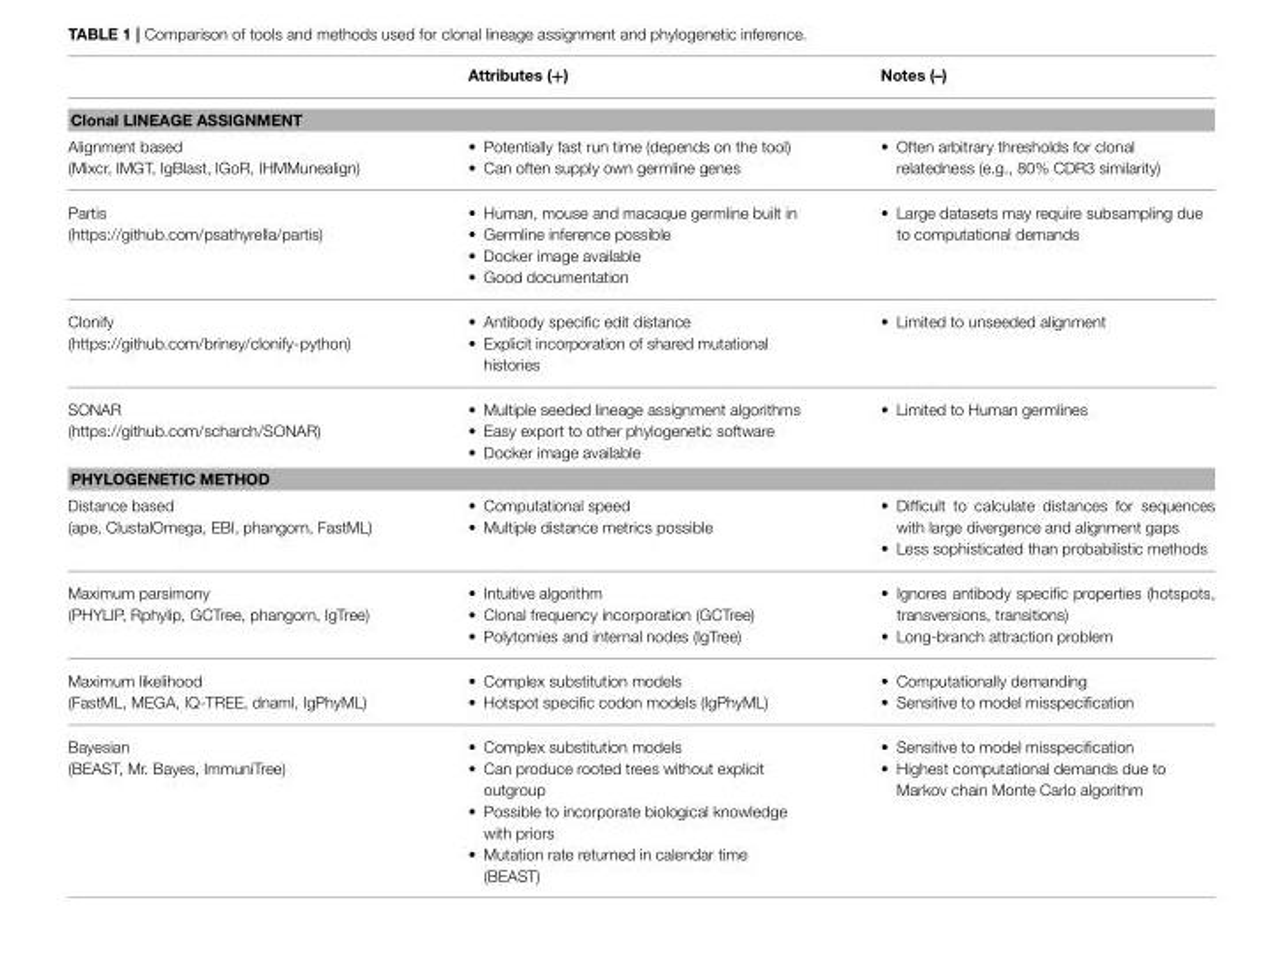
<table><thead><tr><td></td><td>Attributes (+)</td><td>Notes (–)</td></tr></thead><tbody><tr><td colspan="3">Clonal LINEAGE ASSIGNMENT</td></tr><tr><td>Alignment based (Mixcr, IMGT, IgBlast, IGoR, IHMMunealign)</td><td>• Potentially fast run time (depends on the tool) • Can often supply own germline genes</td><td>• Often arbitrary thresholds for clonal relatedness (e.g., 80% CDR3 similarity)</td></tr><tr><td>Partis (https://github.com/psathyrella/partis)</td><td>• Human, mouse and macaque germline built in • Germline inference possible • Docker image available • Good documentation</td><td>• Large datasets may require subsampling due to computational demands</td></tr><tr><td>Clonify (https://github.com/briney/clonify-python)</td><td>• Antibody specific edit distance • Explicit incorporation of shared mutational histories</td><td>• Limited to unseeded alignment</td></tr><tr><td>SONAR (https://github.com/scharch/SONAR)</td><td>• Multiple seeded lineage assignment algorithms • Easy export to other phylogenetic software • Docker image available</td><td>• Limited to Human germlines</td></tr><tr><td colspan="3">PHYLOGENETIC METHOD</td></tr><tr><td>Distance based (ape, ClustalOmega, EBI, phangorn, FastML)</td><td>• Computational speed • Multiple distance metrics possible</td><td>• Difficult to calculate distances for sequences with large divergence and alignment gaps • Less sophisticated than probabilistic methods</td></tr><tr><td>Maximum parsimony (PHYLIP, Rphylip, GCTree, phangorn, IgTree)</td><td>• Intuitive algorithm • Clonal frequency incorporation (GCTree) • Polytomies and internal nodes (IgTree)</td><td>• Ignores antibody specific properties (hotspots, transversions, transitions) • Long-branch attraction problem</td></tr><tr><td>Maximum likelihood (FastML, MEGA, IQ-TREE, dnaml, IgPhyML)</td><td>• Complex substitution models • Hotspot specific codon models (IgPhyML)</td><td>• Computationally demanding • Sensitive to model misspecification</td></tr><tr><td>Bayesian (BEAST, Mr. Bayes, ImmuniTree)</td><td>• Complex substitution models • Can produce rooted trees without explicit outgroup • Possible to incorporate biological knowledge with priors • Mutation rate returned in calendar time (BEAST)</td><td>• Sensitive to model misspecification • Highest computational demands due to Markov chain Monte Carlo algorithm</td></tr></tbody></table>